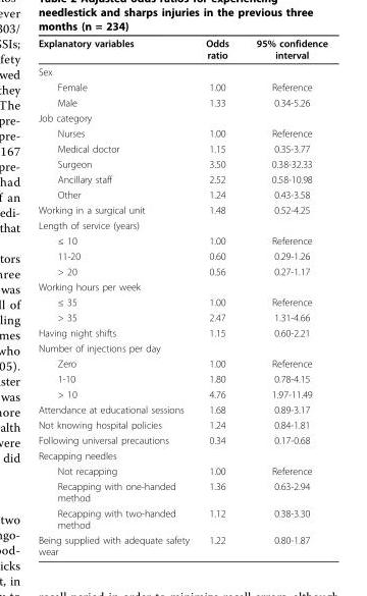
<table><thead><tr><td>Explanatory variables</td><td>Odds ratio</td><td>95% confidence interval</td></tr></thead><tbody><tr><td colspan="3">Sex</td></tr><tr><td>Female</td><td>1.00</td><td>Reference</td></tr><tr><td>Male</td><td>1.33</td><td>0.34-5.26</td></tr><tr><td colspan="3">Job category</td></tr><tr><td>Nurses</td><td>1.00</td><td>Reference</td></tr><tr><td>Medical doctor</td><td>1.15</td><td>0.35-3.77</td></tr><tr><td>Surgeon</td><td>3.50</td><td>0.38-32.33</td></tr><tr><td>Ancillary staff</td><td>2.52</td><td>0.58-10.98</td></tr><tr><td>Other</td><td>1.24</td><td>0.43-3.58</td></tr><tr><td>Working in a surgical unit</td><td>1.48</td><td>0.52-4.25</td></tr><tr><td colspan="3">Length of service (years)</td></tr><tr><td>≤ 10</td><td>1.00</td><td>Reference</td></tr><tr><td>11-20</td><td>0.60</td><td>0.29-1.26</td></tr><tr><td>&gt; 20</td><td>0.56</td><td>0.27-1.17</td></tr><tr><td colspan="3">Working hours per week</td></tr><tr><td>≤ 35</td><td>1.00</td><td>Reference</td></tr><tr><td>&gt; 35</td><td>2.47</td><td>1.31-4.66</td></tr><tr><td>Having night shifts</td><td>1.15</td><td>0.60-2.21</td></tr><tr><td colspan="3">Number of injections per day</td></tr><tr><td>Zero</td><td>1.00</td><td>Reference</td></tr><tr><td>1-10</td><td>1.80</td><td>0.78-4.15</td></tr><tr><td>&gt; 10</td><td>4.76</td><td>1.97-11.49</td></tr><tr><td>Attendance at educational sessions</td><td>1.68</td><td>0.89-3.17</td></tr><tr><td>Not knowing hospital policies</td><td>1.24</td><td>0.84-1.81</td></tr><tr><td>Following universal precautions</td><td>0.34</td><td>0.17-0.68</td></tr><tr><td colspan="3">Recapping needles</td></tr><tr><td>Not recapping</td><td>1.00</td><td>Reference</td></tr><tr><td>Recapping with one-handed method</td><td>1.36</td><td>0.63-2.94</td></tr><tr><td>Recapping with two-handed method</td><td>1.12</td><td>0.38-3.30</td></tr><tr><td>Being supplied with adequate safety wear</td><td>1.22</td><td>0.80-1.87</td></tr></tbody></table>